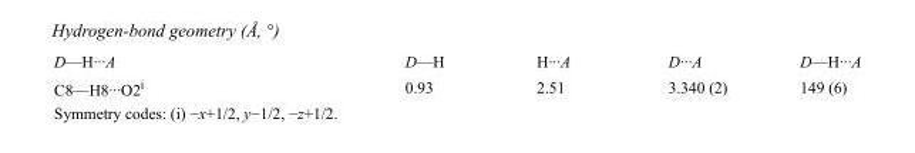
<table><tbody><tr><td>D—H···A</td><td>D—H</td><td>H···A</td><td>D···A</td><td>D—H···A</td></tr><tr><td>C8—H8···O2<sup>i</sup></td><td>0.93</td><td>2.51</td><td>3.340 (2)</td><td>149 (6)</td></tr></tbody></table>